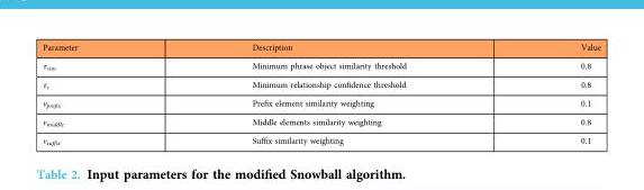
<table><thead><tr><td>Parameter</td><td>Description</td><td>Value</td></tr></thead><tbody><tr><td>τ<sub>sim</sub></td><td>Minimum phrase object similarity threshold</td><td>0.8</td></tr><tr><td>τ<sub>c</sub></td><td>Minimum relationship confidence threshold</td><td>0.8</td></tr><tr><td>v<sub>prefix</sub></td><td>Prefix element similarity weighting</td><td>0.1</td></tr><tr><td>v<sub>middle</sub></td><td>Middle elements similarity weighting</td><td>0.8</td></tr><tr><td>v<sub>suffix</sub></td><td>Suffix similarity weighting</td><td>0.1</td></tr></tbody></table>